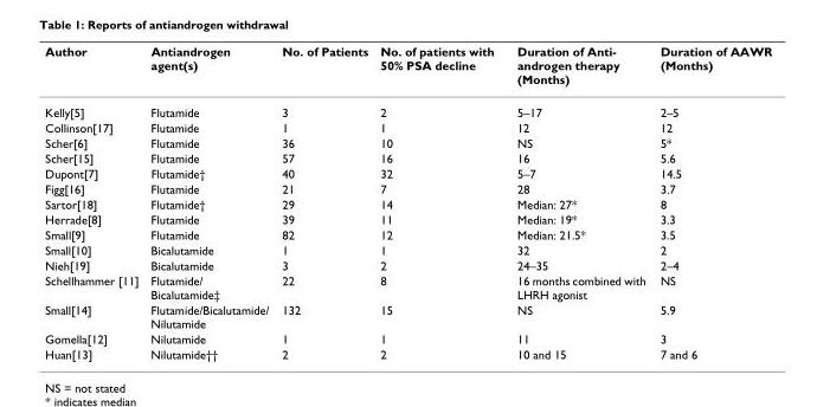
<table><thead><tr><td>Author</td><td>Antiandrogen agent(s)</td><td>No. of Patients</td><td>No. of patients with 50% PSA decline</td><td>Duration of Anti- androgen therapy (Months)</td><td>Duration of AAWR (Months)</td></tr></thead><tbody><tr><td>Kelly[5]</td><td>Flutamide</td><td>3</td><td>2</td><td>5–17</td><td>2–5</td></tr><tr><td>Collinson[17]</td><td>Flutamide</td><td>1</td><td>1</td><td>12</td><td>12</td></tr><tr><td>Scher[6]</td><td>Flutamide</td><td>36</td><td>10</td><td>NS</td><td>5*</td></tr><tr><td>Scher[15]</td><td>Flutamide</td><td>57</td><td>16</td><td>16</td><td>5.6</td></tr><tr><td>Dupont[7]</td><td>Flutamide†</td><td>40</td><td>32</td><td>5–7</td><td>14.5</td></tr><tr><td>Figg[16]</td><td>Flutamide</td><td>21</td><td>7</td><td>28</td><td>3.7</td></tr><tr><td>Sartor[18]</td><td>Flutamide†</td><td>29</td><td>14</td><td>Median: 27*</td><td>8</td></tr><tr><td>Herrade[8]</td><td>Flutamide</td><td>39</td><td>11</td><td>Median: 19*</td><td>3.3</td></tr><tr><td>Small[9]</td><td>Flutamide</td><td>82</td><td>12</td><td>Median: 21.5*</td><td>3.5</td></tr><tr><td>Small[10]</td><td>Bicalutamide</td><td>1</td><td>1</td><td>32</td><td>2</td></tr><tr><td>Nieh[19]</td><td>Bicalutamide</td><td>3</td><td>2</td><td>24–35</td><td>2–4</td></tr><tr><td>Schellhammer [11]</td><td>Flutamide/ Bicalutamide‡</td><td>22</td><td>8</td><td>16 months combined with LHRH agonist</td><td>NS</td></tr><tr><td>Small[14]</td><td>Flutamide/Bicalutamide/ Nilutamide</td><td>132</td><td>15</td><td>NS</td><td>5.9</td></tr><tr><td>Gomella[12]</td><td>Nilutamide</td><td>1</td><td>1</td><td>11</td><td>3</td></tr><tr><td>Huan[13]</td><td>Nilutamide††</td><td>2</td><td>2</td><td>10 and 15</td><td>7 and 6</td></tr></tbody></table>